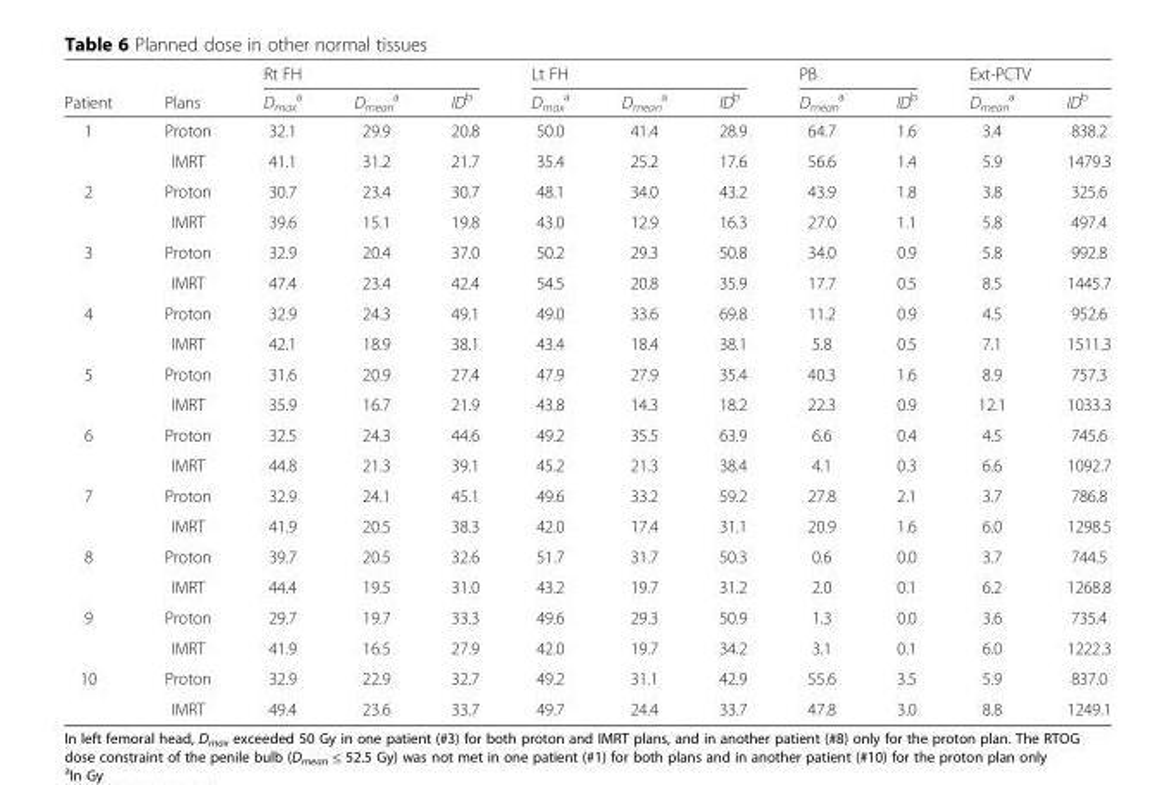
<table><thead><tr><td rowspan="2">Patient</td><td rowspan="2">Plans</td><td colspan="3">Rt FH</td><td colspan="3">Lt FH</td><td colspan="2">PB</td><td colspan="2">Ext-PCTV</td></tr><tr><td>D<sub>max</sub> <sup>a</sup></td><td>D<sub>mean</sub> <sup>a</sup></td><td>ID<sup>b</sup></td><td>D<sub>max</sub> <sup>a</sup></td><td>D<sub>mean</sub> <sup>a</sup></td><td>ID<sup>b</sup></td><td>D<sub>mean</sub> <sup>a</sup></td><td>ID<sup>b</sup></td><td>D<sub>mean</sub> <sup>a</sup></td><td>ID<sup>b</sup></td></tr></thead><tbody><tr><td rowspan="2">1</td><td>Proton</td><td>32.1</td><td>29.9</td><td>20.8</td><td>50.0</td><td>41.4</td><td>28.9</td><td>64.7</td><td>1.6</td><td>3.4</td><td>838.2</td></tr><tr><td>IMRT</td><td>41.1</td><td>31.2</td><td>21.7</td><td>35.4</td><td>25.2</td><td>17.6</td><td>56.6</td><td>1.4</td><td>5.9</td><td>1479.3</td></tr><tr><td rowspan="2">2</td><td>Proton</td><td>30.7</td><td>23.4</td><td>30.7</td><td>48.1</td><td>34.0</td><td>43.2</td><td>43.9</td><td>1.8</td><td>3.8</td><td>325.6</td></tr><tr><td>IMRT</td><td>39.6</td><td>15.1</td><td>19.8</td><td>43.0</td><td>12.9</td><td>16.3</td><td>27.0</td><td>1.1</td><td>5.8</td><td>497.4</td></tr><tr><td rowspan="2">3</td><td>Proton</td><td>32.9</td><td>20.4</td><td>37.0</td><td>50.2</td><td>29.3</td><td>50.8</td><td>34.0</td><td>0.9</td><td>5.8</td><td>992.8</td></tr><tr><td>IMRT</td><td>47.4</td><td>23.4</td><td>42.4</td><td>54.5</td><td>20.8</td><td>35.9</td><td>17.7</td><td>0.5</td><td>8.5</td><td>1445.7</td></tr><tr><td rowspan="2">4</td><td>Proton</td><td>32.9</td><td>24.3</td><td>49.1</td><td>49.0</td><td>33.6</td><td>69.8</td><td>11.2</td><td>0.9</td><td>4.5</td><td>952.6</td></tr><tr><td>IMRT</td><td>42.1</td><td>18.9</td><td>38.1</td><td>43.4</td><td>18.4</td><td>38.1</td><td>5.8</td><td>0.5</td><td>7.1</td><td>1511.3</td></tr><tr><td rowspan="2">5</td><td>Proton</td><td>31.6</td><td>20.9</td><td>27.4</td><td>47.9</td><td>27.9</td><td>35.4</td><td>40.3</td><td>1.6</td><td>8.9</td><td>757.3</td></tr><tr><td>IMRT</td><td>35.9</td><td>16.7</td><td>21.9</td><td>43.8</td><td>14.3</td><td>18.2</td><td>22.3</td><td>0.9</td><td>12.1</td><td>1033.3</td></tr><tr><td rowspan="2">6</td><td>Proton</td><td>32.5</td><td>24.3</td><td>44.6</td><td>49.2</td><td>35.5</td><td>63.9</td><td>6.6</td><td>0.4</td><td>4.5</td><td>745.6</td></tr><tr><td>IMRT</td><td>44.8</td><td>21.3</td><td>39.1</td><td>45.2</td><td>21.3</td><td>38.4</td><td>4.1</td><td>0.3</td><td>6.6</td><td>1092.7</td></tr><tr><td rowspan="2">7</td><td>Proton</td><td>32.9</td><td>24.1</td><td>45.1</td><td>49.6</td><td>33.2</td><td>59.2</td><td>27.8</td><td>2.1</td><td>3.7</td><td>786.8</td></tr><tr><td>IMRT</td><td>41.9</td><td>20.5</td><td>38.3</td><td>42.0</td><td>17.4</td><td>31.1</td><td>20.9</td><td>1.6</td><td>6.0</td><td>1298.5</td></tr><tr><td rowspan="2">8</td><td>Proton</td><td>39.7</td><td>20.5</td><td>32.6</td><td>51.7</td><td>31.7</td><td>50.3</td><td>0.6</td><td>0.0</td><td>3.7</td><td>744.5</td></tr><tr><td>IMRT</td><td>44.4</td><td>19.5</td><td>31.0</td><td>43.2</td><td>19.7</td><td>31.2</td><td>2.0</td><td>0.1</td><td>6.2</td><td>1268.8</td></tr><tr><td rowspan="2">9</td><td>Proton</td><td>29.7</td><td>19.7</td><td>33.3</td><td>49.6</td><td>29.3</td><td>50.9</td><td>1.3</td><td>0.0</td><td>3.6</td><td>735.4</td></tr><tr><td>IMRT</td><td>41.9</td><td>16.5</td><td>27.9</td><td>42.0</td><td>19.7</td><td>34.2</td><td>3.1</td><td>0.1</td><td>6.0</td><td>1222.3</td></tr><tr><td rowspan="2">10</td><td>Proton</td><td>32.9</td><td>22.9</td><td>32.7</td><td>49.2</td><td>31.1</td><td>42.9</td><td>55.6</td><td>3.5</td><td>5.9</td><td>837.0</td></tr><tr><td>IMRT</td><td>49.4</td><td>23.6</td><td>33.7</td><td>49.7</td><td>24.4</td><td>33.7</td><td>47.8</td><td>3.0</td><td>8.8</td><td>1249.1</td></tr></tbody></table>